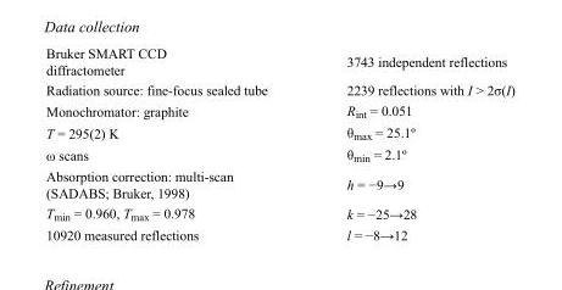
<table><tbody><tr><td>Bruker SMART CCD diffractometer</td><td>3743 independent reflections</td></tr><tr><td>Radiation source: fine-focus sealed tube</td><td>2239 reflections with I &gt; 2σ(I)</td></tr><tr><td>Monochromator: graphite</td><td>R<sub>int</sub> = 0.051</td></tr><tr><td>T = 295(2) K</td><td>θ<sub>max</sub> = 25.1º</td></tr><tr><td>ω scans</td><td>θ<sub>min</sub> = 2.1º</td></tr><tr><td>Absorption correction: multi-scan (SADABS; Bruker, 1998)</td><td>h = −9→9</td></tr><tr><td>T<sub>min</sub> = 0.960, T<sub>max</sub> = 0.978</td><td>k = −25→28</td></tr><tr><td>10920 measured reflections</td><td>l = −8→12</td></tr></tbody></table>